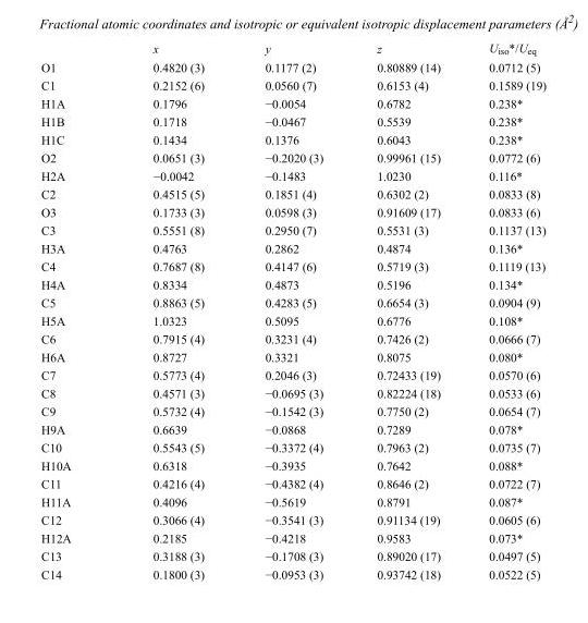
<table><thead><tr><td></td><td>x</td><td>y</td><td>z</td><td>U<sub>iso</sub>*/U<sub>eq</sub></td></tr></thead><tbody><tr><td>O1</td><td>0.4820 (3)</td><td>0.1177 (2)</td><td>0.80889 (14)</td><td>0.0712 (5)</td></tr><tr><td>C1</td><td>0.2152 (6)</td><td>0.0560 (7)</td><td>0.6153 (4)</td><td>0.1589 (19)</td></tr><tr><td>H1A</td><td>0.1796</td><td>−0.0054</td><td>0.6782</td><td>0.238*</td></tr><tr><td>H1B</td><td>0.1718</td><td>−0.0467</td><td>0.5539</td><td>0.238*</td></tr><tr><td>H1C</td><td>0.1434</td><td>0.1376</td><td>0.6043</td><td>0.238*</td></tr><tr><td>O2</td><td>0.0651 (3)</td><td>−0.2020 (3)</td><td>0.99961 (15)</td><td>0.0772 (6)</td></tr><tr><td>H2A</td><td>−0.0042</td><td>−0.1483</td><td>1.0230</td><td>0.116*</td></tr><tr><td>C2</td><td>0.4515 (5)</td><td>0.1851 (4)</td><td>0.6302 (2)</td><td>0.0833 (8)</td></tr><tr><td>O3</td><td>0.1733 (3)</td><td>0.0598 (3)</td><td>0.91609 (17)</td><td>0.0833 (6)</td></tr><tr><td>C3</td><td>0.5551 (8)</td><td>0.2950 (7)</td><td>0.5531 (3)</td><td>0.1137 (13)</td></tr><tr><td>H3A</td><td>0.4763</td><td>0.2862</td><td>0.4874</td><td>0.136*</td></tr><tr><td>C4</td><td>0.7687 (8)</td><td>0.4147 (6)</td><td>0.5719 (3)</td><td>0.1119 (13)</td></tr><tr><td>H4A</td><td>0.8334</td><td>0.4873</td><td>0.5196</td><td>0.134*</td></tr><tr><td>C5</td><td>0.8863 (5)</td><td>0.4283 (5)</td><td>0.6654 (3)</td><td>0.0904 (9)</td></tr><tr><td>H5A</td><td>1.0323</td><td>0.5095</td><td>0.6776</td><td>0.108*</td></tr><tr><td>C6</td><td>0.7915 (4)</td><td>0.3231 (4)</td><td>0.7426 (2)</td><td>0.0666 (7)</td></tr><tr><td>H6A</td><td>0.8727</td><td>0.3321</td><td>0.8075</td><td>0.080*</td></tr><tr><td>C7</td><td>0.5773 (4)</td><td>0.2046 (3)</td><td>0.72433 (19)</td><td>0.0570 (6)</td></tr><tr><td>C8</td><td>0.4571 (3)</td><td>−0.0695 (3)</td><td>0.82224 (18)</td><td>0.0533 (6)</td></tr><tr><td>C9</td><td>0.5732 (4)</td><td>−0.1542 (3)</td><td>0.7750 (2)</td><td>0.0654 (7)</td></tr><tr><td>H9A</td><td>0.6639</td><td>−0.0868</td><td>0.7289</td><td>0.078*</td></tr><tr><td>C10</td><td>0.5543 (5)</td><td>−0.3372 (4)</td><td>0.7963 (2)</td><td>0.0735 (7)</td></tr><tr><td>H10A</td><td>0.6318</td><td>−0.3935</td><td>0.7642</td><td>0.088*</td></tr><tr><td>C11</td><td>0.4216 (4)</td><td>−0.4382 (4)</td><td>0.8646 (2)</td><td>0.0722 (7)</td></tr><tr><td>H11A</td><td>0.4096</td><td>−0.5619</td><td>0.8791</td><td>0.087*</td></tr><tr><td>C12</td><td>0.3066 (4)</td><td>−0.3541 (3)</td><td>0.91134 (19)</td><td>0.0605 (6)</td></tr><tr><td>H12A</td><td>0.2185</td><td>−0.4218</td><td>0.9583</td><td>0.073*</td></tr><tr><td>C13</td><td>0.3188 (3)</td><td>−0.1708 (3)</td><td>0.89020 (17)</td><td>0.0497 (5)</td></tr><tr><td>C14</td><td>0.1800 (3)</td><td>−0.0953 (3)</td><td>0.93742 (18)</td><td>0.0522 (5)</td></tr></tbody></table>